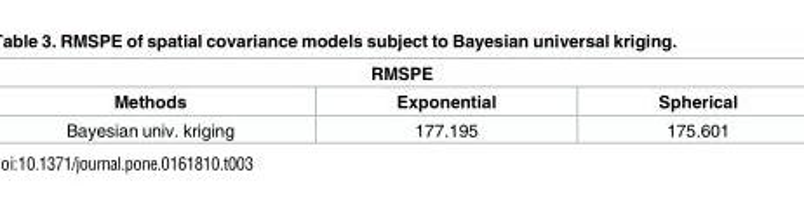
<table><thead><tr><td colspan="3">RMSPE</td></tr><tr><td>Methods</td><td>Exponential</td><td>Spherical</td></tr></thead><tbody><tr><td>Bayesian univ. kriging</td><td>177.195</td><td>175.601</td></tr></tbody></table>